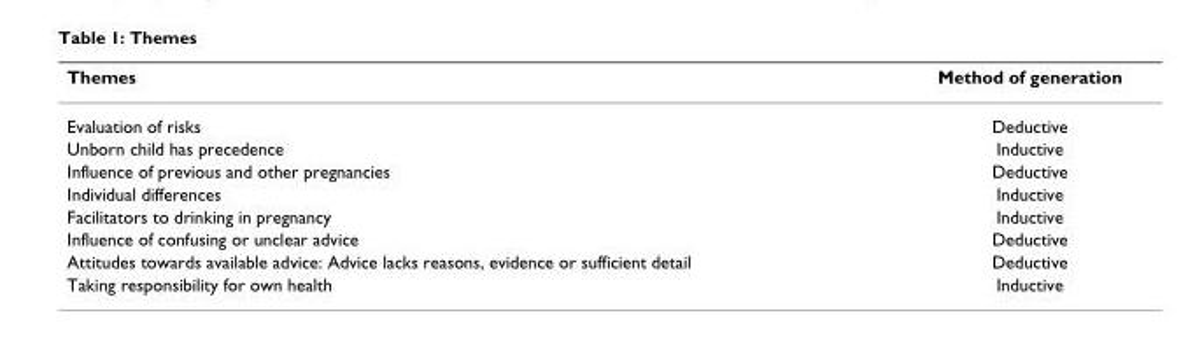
<table><thead><tr><td>Themes</td><td>Method of generation</td></tr></thead><tbody><tr><td>Evaluation of risks</td><td>Deductive</td></tr><tr><td>Unborn child has precedence</td><td>Inductive</td></tr><tr><td>Influence of previous and other pregnancies</td><td>Deductive</td></tr><tr><td>Individual differences</td><td>Inductive</td></tr><tr><td>Facilitators to drinking in pregnancy</td><td>Inductive</td></tr><tr><td>Influence of confusing or unclear advice</td><td>Deductive</td></tr><tr><td>Attitudes towards available advice: Advice lacks reasons, evidence or sufficient detail</td><td>Deductive</td></tr><tr><td>Taking responsibility for own health</td><td>Inductive</td></tr></tbody></table>